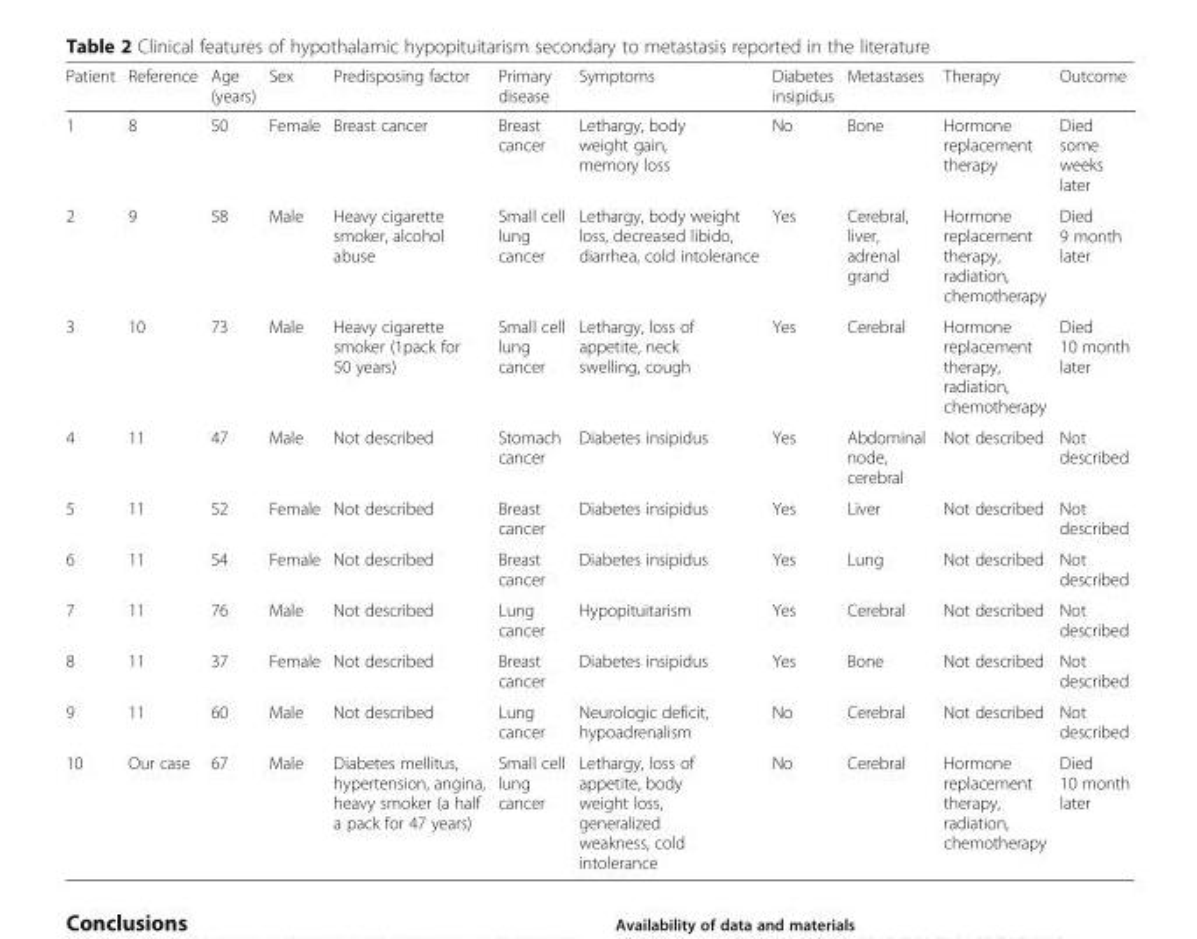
<table><thead><tr><td>Patient</td><td>Reference</td><td>Age (years)</td><td>Sex</td><td>Predisposing factor</td><td>Primary disease</td><td>Symptoms</td><td>Diabetes insipidus</td><td>Metastases</td><td>Therapy</td><td>Outcome</td></tr></thead><tbody><tr><td>1</td><td>8</td><td>50</td><td>Female</td><td>Breast cancer</td><td>Breast cancer</td><td>Lethargy, body weight gain, memory loss</td><td>No</td><td>Bone</td><td>Hormone replacement therapy</td><td>Died some weeks later</td></tr><tr><td>2</td><td>9</td><td>58</td><td>Male</td><td>Heavy cigarette smoker, alcohol abuse</td><td>Small cell lung cancer</td><td>Lethargy, body weight loss, decreased libido, diarrhea, cold intolerance</td><td>Yes</td><td>Cerebral, liver, adrenal grand</td><td>Hormone replacement therapy, radiation, chemotherapy</td><td>Died 9 month later</td></tr><tr><td>3</td><td>10</td><td>73</td><td>Male</td><td>Heavy cigarette smoker (1pack for 50 years)</td><td>Small cell lung cancer</td><td>Lethargy, loss of appetite, neck swelling, cough</td><td>Yes</td><td>Cerebral</td><td>Hormone replacement therapy, radiation, chemotherapy</td><td>Died 10 month later</td></tr><tr><td>4</td><td>11</td><td>47</td><td>Male</td><td>Not described</td><td>Stomach cancer</td><td>Diabetes insipidus</td><td>Yes</td><td>Abdominal node, cerebral</td><td>Not described</td><td>Not described</td></tr><tr><td>5</td><td>11</td><td>52</td><td>Female</td><td>Not described</td><td>Breast cancer</td><td>Diabetes insipidus</td><td>Yes</td><td>Liver</td><td>Not described</td><td>Not described</td></tr><tr><td>6</td><td>11</td><td>54</td><td>Female</td><td>Not described</td><td>Breast cancer</td><td>Diabetes insipidus</td><td>Yes</td><td>Lung</td><td>Not described</td><td>Not described</td></tr><tr><td>7</td><td>11</td><td>76</td><td>Male</td><td>Not described</td><td>Lung cancer</td><td>Hypopituitarism</td><td>Yes</td><td>Cerebral</td><td>Not described</td><td>Not described</td></tr><tr><td>8</td><td>11</td><td>37</td><td>Female</td><td>Not described</td><td>Breast cancer</td><td>Diabetes insipidus</td><td>Yes</td><td>Bone</td><td>Not described</td><td>Not described</td></tr><tr><td>9</td><td>11</td><td>60</td><td>Male</td><td>Not described</td><td>Lung cancer</td><td>Neurologic deficit, hypoadrenalism</td><td>No</td><td>Cerebral</td><td>Not described</td><td>Not described</td></tr><tr><td>10</td><td>Our case</td><td>67</td><td>Male</td><td>Diabetes mellitus, hypertension, angina, heavy smoker (a half a pack for 47 years)</td><td>Small cell lung cancer</td><td>Lethargy, loss of appetite, body weight loss, generalized weakness, cold intolerance</td><td>No</td><td>Cerebral</td><td>Hormone replacement therapy, radiation, chemotherapy</td><td>Died 10 month later</td></tr></tbody></table>